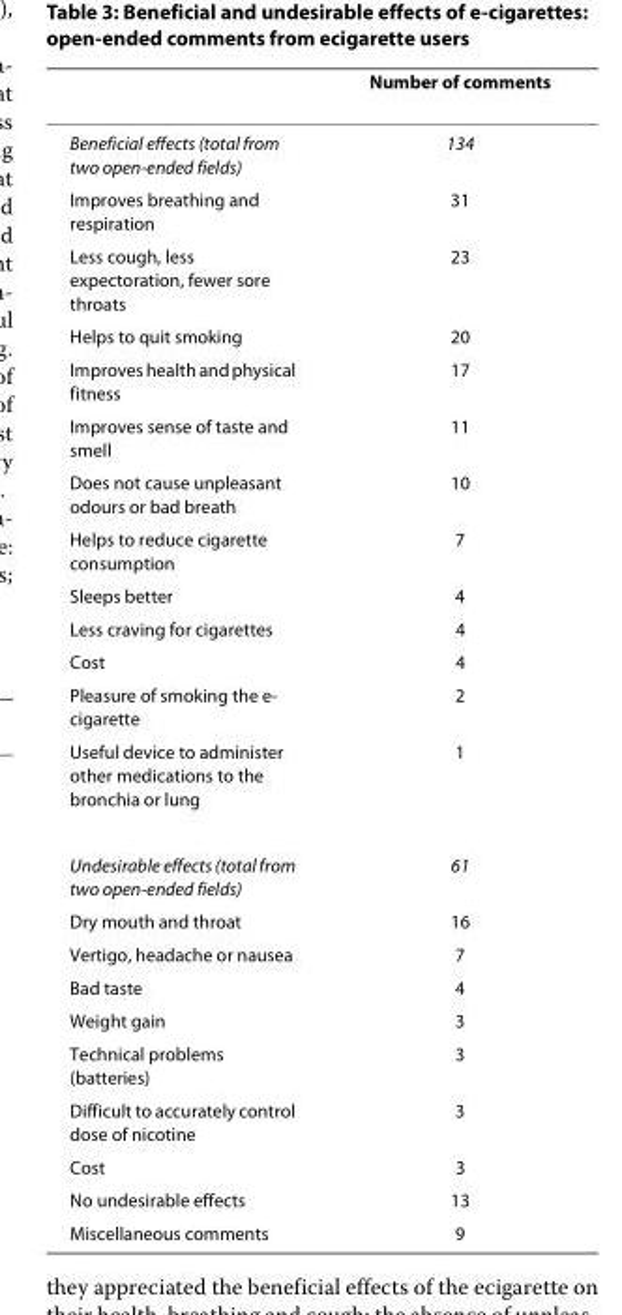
<table><thead><tr><td></td><td>Number of comments</td></tr></thead><tbody><tr><td>Beneficial effects (total from two open-ended fields)</td><td>134</td></tr><tr><td>Improves breathing and respiration</td><td>31</td></tr><tr><td>Less cough, less expectoration, fewer sore throats</td><td>23</td></tr><tr><td>Helps to quit smoking</td><td>20</td></tr><tr><td>Improves health and physical fitness</td><td>17</td></tr><tr><td>Improves sense of taste and smell</td><td>11</td></tr><tr><td>Does not cause unpleasant odours or bad breath</td><td>10</td></tr><tr><td>Helps to reduce cigarette consumption</td><td>7</td></tr><tr><td>Sleeps better</td><td>4</td></tr><tr><td>Less craving for cigarettes</td><td>4</td></tr><tr><td>Cost</td><td>4</td></tr><tr><td>Pleasure of smoking the e- cigarette</td><td>2</td></tr><tr><td>Useful device to administer other medications to the bronchia or lung</td><td>1</td></tr><tr><td>Undesirable effects (total from two open-ended fields)</td><td>61</td></tr><tr><td>Dry mouth and throat</td><td>16</td></tr><tr><td>Vertigo, headache or nausea</td><td>7</td></tr><tr><td>Bad taste</td><td>4</td></tr><tr><td>Weight gain</td><td>3</td></tr><tr><td>Technical problems (batteries)</td><td>3</td></tr><tr><td>Difficult to accurately control dose of nicotine</td><td>3</td></tr><tr><td>Cost</td><td>3</td></tr><tr><td>No undesirable effects</td><td>13</td></tr><tr><td>Miscellaneous comments</td><td>9</td></tr></tbody></table>